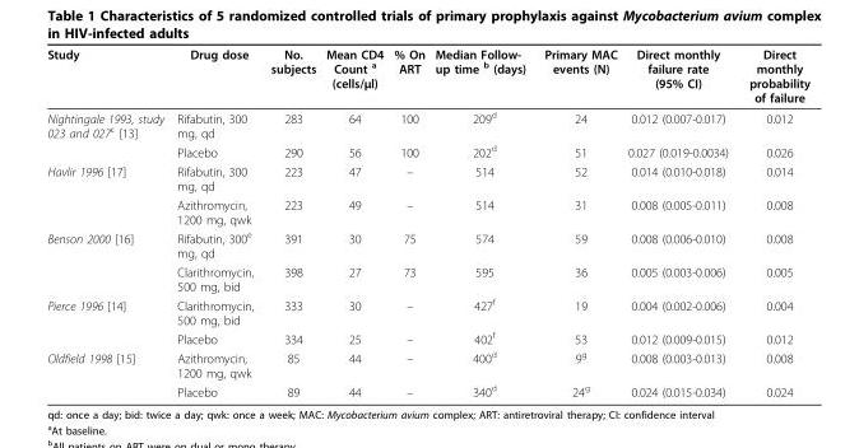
<table><thead><tr><td>Study</td><td>Drug dose</td><td>No. subjects</td><td>Mean CD4 Count <sup>a</sup> (cells/μl)</td><td>% On ART</td><td>Median Follow- up time <sup>b</sup> (days)</td><td>Primary MAC events (N)</td><td>Direct monthly failure rate (95% CI)</td><td>Direct monthly probability of failure</td></tr></thead><tbody><tr><td rowspan="2">Nightingale 1993, study 023 and 027<sup>c</sup> [13]</td><td>Rifabutin, 300 mg, qd</td><td>283</td><td>64</td><td>100</td><td>209<sup>d</sup></td><td>24</td><td>0.012 (0.007-0.017)</td><td>0.012</td></tr><tr><td>Placebo</td><td>290</td><td>56</td><td>100</td><td>202<sup>d</sup></td><td>51</td><td>0.027 (0.019-0.0034)</td><td>0.026</td></tr><tr><td rowspan="2">Havlir 1996 [17]</td><td>Rifabutin, 300 mg, qd</td><td>223</td><td>47</td><td>–</td><td>514</td><td>52</td><td>0.014 (0.010-0.018)</td><td>0.014</td></tr><tr><td>Azithromycin, 1200 mg, qwk</td><td>223</td><td>49</td><td>–</td><td>514</td><td>31</td><td>0.008 (0.005-0.011)</td><td>0.008</td></tr><tr><td rowspan="2">Benson 2000 [16]</td><td>Rifabutin, 300<sup>e</sup> mg, qd</td><td>391</td><td>30</td><td>75</td><td>574</td><td>59</td><td>0.008 (0.006-0.010)</td><td>0.008</td></tr><tr><td>Clarithromycin, 500 mg, bid</td><td>398</td><td>27</td><td>73</td><td>595</td><td>36</td><td>0.005 (0.003-0.006)</td><td>0.005</td></tr><tr><td rowspan="2">Pierce 1996 [14]</td><td>Clarithromycin, 500 mg, bid</td><td>333</td><td>30</td><td>–</td><td>427<sup>f</sup></td><td>19</td><td>0.004 (0.002-0.006)</td><td>0.004</td></tr><tr><td>Placebo</td><td>334</td><td>25</td><td>–</td><td>402<sup>f</sup></td><td>53</td><td>0.012 (0.009-0.015)</td><td>0.012</td></tr><tr><td rowspan="2">Oldfield 1998 [15]</td><td>Azithromycin, 1200 mg, qwk</td><td>85</td><td>44</td><td>–</td><td>400<sup>d</sup></td><td>9<sup>g</sup></td><td>0.008 (0.003-0.013)</td><td>0.008</td></tr><tr><td>Placebo</td><td>89</td><td>44</td><td>–</td><td>340<sup>d</sup></td><td>24<sup>g</sup></td><td>0.024 (0.015-0.034)</td><td>0.024</td></tr></tbody></table>